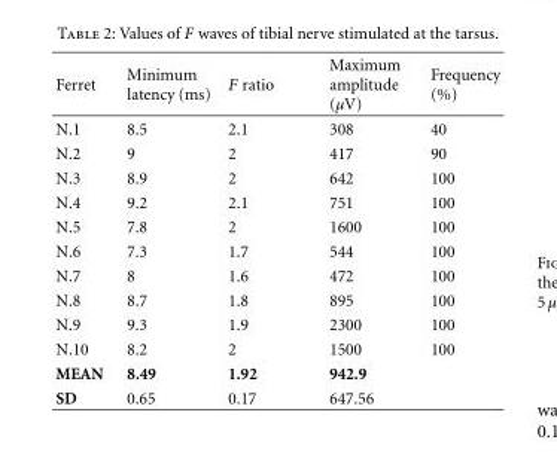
<table><thead><tr><td>Ferret</td><td>Minimum latency (ms)</td><td>F ratio</td><td>Maximum amplitude (μV)</td><td>Frequency (%)</td></tr></thead><tbody><tr><td>N.1</td><td>8.5</td><td>2.1</td><td>308</td><td>40</td></tr><tr><td>N.2</td><td>9</td><td>2</td><td>417</td><td>90</td></tr><tr><td>N.3</td><td>8.9</td><td>2</td><td>642</td><td>100</td></tr><tr><td>N.4</td><td>9.2</td><td>2.1</td><td>751</td><td>100</td></tr><tr><td>N.5</td><td>7.8</td><td>2</td><td>1600</td><td>100</td></tr><tr><td>N.6</td><td>7.3</td><td>1.7</td><td>544</td><td>100</td></tr><tr><td>N.7</td><td>8</td><td>1.6</td><td>472</td><td>100</td></tr><tr><td>N.8</td><td>8.7</td><td>1.8</td><td>895</td><td>100</td></tr><tr><td>N.9</td><td>9.3</td><td>1.9</td><td>2300</td><td>100</td></tr><tr><td>N.10</td><td>8.2</td><td>2</td><td>1500</td><td>100</td></tr><tr><td>MEAN</td><td>8.49</td><td>1.92</td><td>942.9</td><td></td></tr><tr><td>SD</td><td>0.65</td><td>0.17</td><td>647.56</td><td></td></tr></tbody></table>